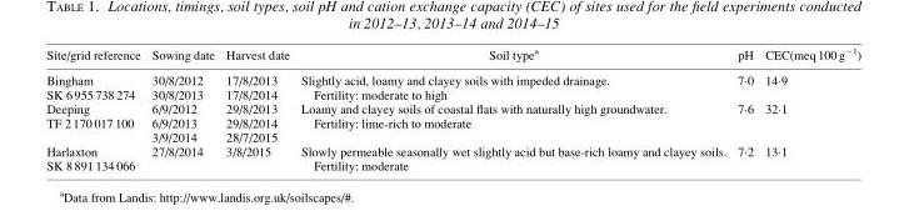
<table><thead><tr><td>Site/grid reference</td><td>Sowing date</td><td>Harvest date</td><td>Soil type<sup>a</sup></td><td>pH</td><td>CEC(meq 100 g<sup>−1</sup>)</td></tr></thead><tbody><tr><td>Bingham SK 6 955 738 274</td><td>30/8/2012 30/8/2013</td><td>17/8/2013 17/8/2014</td><td>Slightly acid, loamy and clayey soils with impeded drainage. Fertility: moderate to high</td><td>7·0</td><td>14·9</td></tr><tr><td>Deeping TF 2 170 017 100</td><td>6/9/2012 6/9/2013 3/9/2014</td><td>29/8/2013 29/8/2014 28/7/2015</td><td>Loamy and clayey soils of coastal flats with naturally high groundwater. Fertility: lime-rich to moderate</td><td>7·6</td><td>32·1</td></tr><tr><td>Harlaxton SK 8 891 134 066</td><td>27/8/2014</td><td>3/8/2015</td><td>Slowly permeable seasonally wet slightly acid but base-rich loamy and clayey soils. Fertility: moderate</td><td>7·2</td><td>13·1</td></tr></tbody></table>